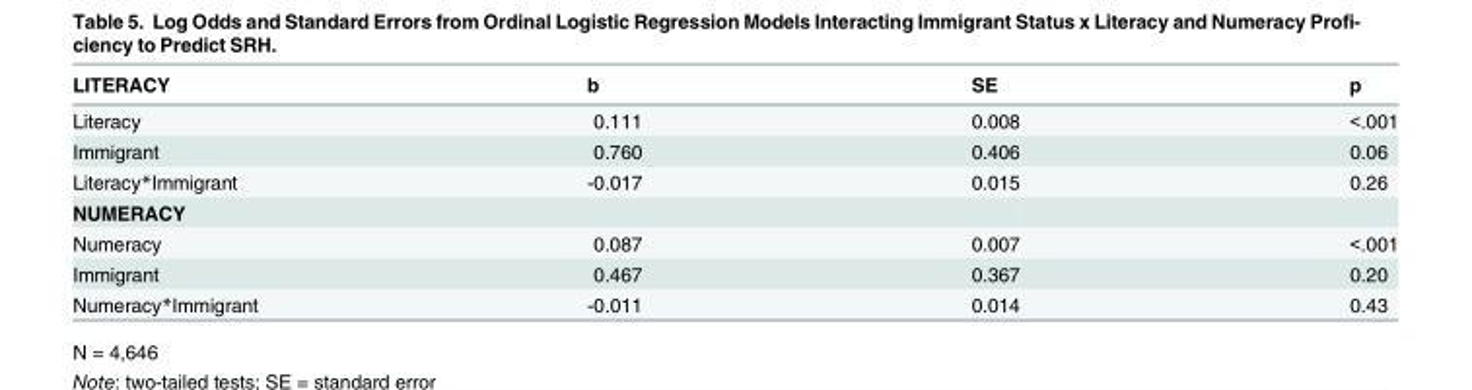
<table><thead><tr><td>LITERACY</td><td>b</td><td>SE</td><td>p</td></tr></thead><tbody><tr><td>Literacy</td><td>0.111</td><td>0.008</td><td>&lt;.001</td></tr><tr><td>Immigrant</td><td>0.760</td><td>0.406</td><td>0.06</td></tr><tr><td>Literacy*Immigrant</td><td>-0.017</td><td>0.015</td><td>0.26</td></tr><tr><td colspan="4">NUMERACY</td></tr><tr><td>Numeracy</td><td>0.087</td><td>0.007</td><td>&lt;.001</td></tr><tr><td>Immigrant</td><td>0.467</td><td>0.367</td><td>0.20</td></tr><tr><td>Numeracy*Immigrant</td><td>-0.011</td><td>0.014</td><td>0.43</td></tr></tbody></table>